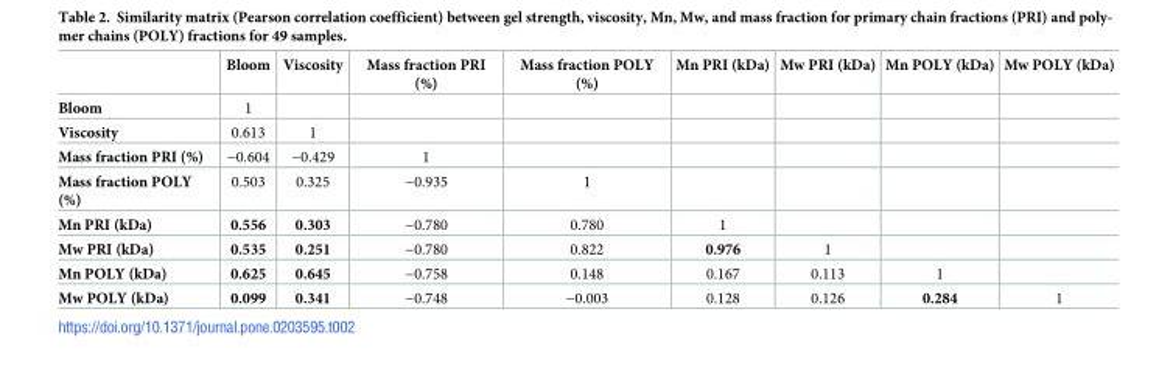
<table><thead><tr><td></td><td>Bloom</td><td>Viscosity</td><td>Mass fraction PRI (%)</td><td>Mass fraction POLY (%)</td><td>Mn PRI (kDa)</td><td>Mw PRI (kDa)</td><td>Mn POLY (kDa)</td><td>Mw POLY (kDa)</td></tr></thead><tbody><tr><td>Bloom</td><td>1</td><td></td><td></td><td></td><td></td><td></td><td></td><td></td></tr><tr><td>Viscosity</td><td>0.613</td><td>1</td><td></td><td></td><td></td><td></td><td></td><td></td></tr><tr><td>Mass fraction PRI (%)</td><td>−0.604</td><td>−0.429</td><td>1</td><td></td><td></td><td></td><td></td><td></td></tr><tr><td>Mass fraction POLY (%)</td><td>0.503</td><td>0.325</td><td>−0.935</td><td>1</td><td></td><td></td><td></td><td></td></tr><tr><td>Mn PRI (kDa)</td><td>0.556</td><td>0.303</td><td>−0.780</td><td>0.780</td><td>1</td><td></td><td></td><td></td></tr><tr><td>Mw PRI (kDa)</td><td>0.535</td><td>0.251</td><td>−0.780</td><td>0.822</td><td>0.976</td><td>1</td><td></td><td></td></tr><tr><td>Mn POLY (kDa)</td><td>0.625</td><td>0.645</td><td>−0.758</td><td>0.148</td><td>0.167</td><td>0.113</td><td>1</td><td></td></tr><tr><td>Mw POLY (kDa)</td><td>0.099</td><td>0.341</td><td>−0.748</td><td>−0.003</td><td>0.128</td><td>0.126</td><td>0.284</td><td>1</td></tr></tbody></table>